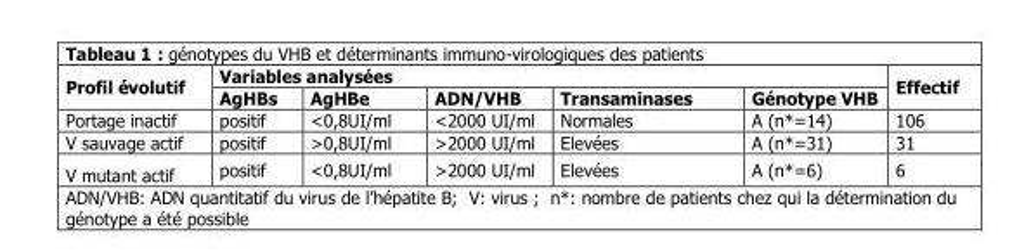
<table><thead><tr><td rowspan="2">Profil évolutif</td><td colspan="5">Variables analysées</td><td rowspan="2">Effectif</td></tr><tr><td>AgHBs</td><td>AgHBe</td><td>ADN/VHB</td><td>Transaminases</td><td>Génotype VHB</td></tr></thead><tbody><tr><td>Portage inactif</td><td>positif</td><td>&lt;0,8UI/ml</td><td>&lt;2000 UI/ml</td><td>Normales</td><td>A (n*=14)</td><td>106</td></tr><tr><td>V sauvage actif</td><td>positif</td><td>&gt;0,8UI/ml</td><td>&gt;2000 UI/ml</td><td>Elevées</td><td>A (n*=31)</td><td>31</td></tr><tr><td>V mutant actif</td><td>positif</td><td>&lt;0,8UI/ml</td><td>&gt;2000 UI/ml</td><td>Elevées</td><td>A (n*=6)</td><td>6</td></tr></tbody></table>